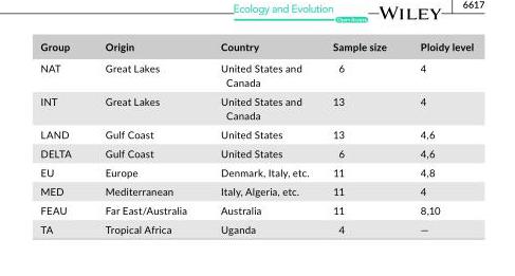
<table><thead><tr><td>Group</td><td>Origin</td><td>Country</td><td>Sample size</td><td>Ploidy level</td></tr></thead><tbody><tr><td>NAT</td><td>Great Lakes</td><td>United States and Canada</td><td>6</td><td>4</td></tr><tr><td>INT</td><td>Great Lakes</td><td>United States and Canada</td><td>13</td><td>4</td></tr><tr><td>LAND</td><td>Gulf Coast</td><td>United States</td><td>13</td><td>4,6</td></tr><tr><td>DELTA</td><td>Gulf Coast</td><td>United States</td><td>6</td><td>4,6</td></tr><tr><td>EU</td><td>Europe</td><td>Denmark, Italy, etc.</td><td>11</td><td>4,8</td></tr><tr><td>MED</td><td>Mediterranean</td><td>Italy, Algeria, etc.</td><td>11</td><td>4</td></tr><tr><td>FEAU</td><td>Far East/Australia</td><td>Australia</td><td>11</td><td>8,10</td></tr><tr><td>TA</td><td>Tropical Africa</td><td>Uganda</td><td>4</td><td>—</td></tr></tbody></table>